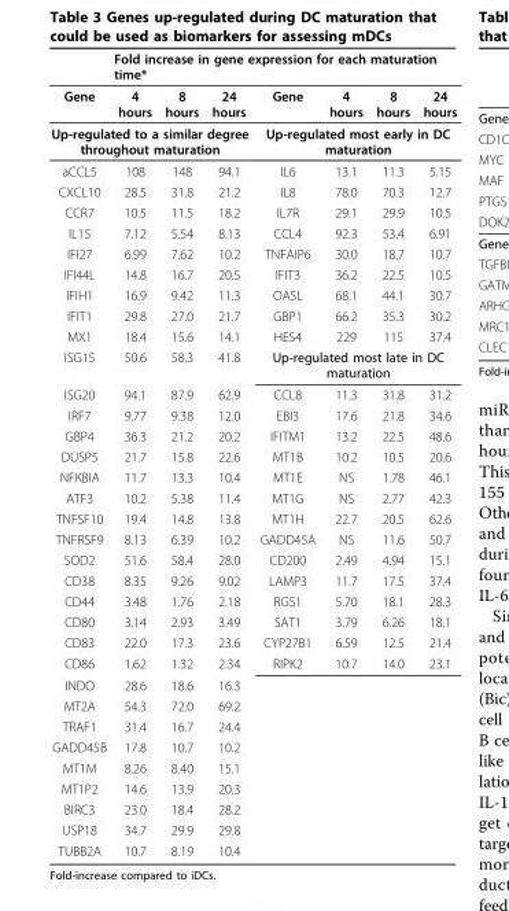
<table><thead><tr><td rowspan="2">Gene</td><td colspan="7">Fold increase in gene expression for each maturation time*</td></tr><tr><td>4 hours</td><td>8 hours</td><td>24 hours</td><td>Gene</td><td>4 hours</td><td>8 hours</td><td>24 hours</td></tr></thead><tbody><tr><td colspan="4">Up-regulated to a similar degree throughout maturation</td><td colspan="4">Up-regulated most early in DC maturation</td></tr><tr><td>aCCL5</td><td>108</td><td>148</td><td>94.1</td><td>IL6</td><td>13.1</td><td>11.3</td><td>5.15</td></tr><tr><td>CXCL10</td><td>28.5</td><td>31.8</td><td>21.2</td><td>IL8</td><td>78.0</td><td>70.3</td><td>12.7</td></tr><tr><td>CCR7</td><td>10.5</td><td>11.5</td><td>18.2</td><td>IL7R</td><td>29.1</td><td>29.9</td><td>10.5</td></tr><tr><td>IL15</td><td>7.12</td><td>5.54</td><td>8.13</td><td>CCL4</td><td>92.3</td><td>53.4</td><td>6.91</td></tr><tr><td>IFI27</td><td>6.99</td><td>7.62</td><td>10.2</td><td>TNFAIP6</td><td>30.0</td><td>18.7</td><td>10.7</td></tr><tr><td>IFI44L</td><td>14.8</td><td>16.7</td><td>20.5</td><td>IFIT3</td><td>36.2</td><td>22.5</td><td>10.5</td></tr><tr><td>IFIH1</td><td>16.9</td><td>9.42</td><td>11.3</td><td>OASL</td><td>68.1</td><td>44.1</td><td>30.7</td></tr><tr><td>IFIT1</td><td>29.8</td><td>27.0</td><td>21.7</td><td>GBP1</td><td>66.2</td><td>35.3</td><td>30.2</td></tr><tr><td>MX1</td><td>18.4</td><td>15.6</td><td>14.1</td><td>HES4</td><td>229</td><td>115</td><td>37.4</td></tr><tr><td>ISG15</td><td>50.6</td><td>58.3</td><td>41.8</td><td colspan="4">Up-regulated most late in DC maturation</td></tr><tr><td>ISG20</td><td>94.1</td><td>87.9</td><td>62.9</td><td>CCL8</td><td>11.3</td><td>31.8</td><td>31.2</td></tr><tr><td>IRF7</td><td>9.77</td><td>9.38</td><td>12.0</td><td>EBI3</td><td>17.6</td><td>21.8</td><td>34.6</td></tr><tr><td>GBP4</td><td>36.3</td><td>21.2</td><td>20.2</td><td>IFITM1</td><td>13.2</td><td>22.5</td><td>48.6</td></tr><tr><td>DUSP5</td><td>21.7</td><td>15.8</td><td>22.6</td><td>MT1B</td><td>10.2</td><td>10.5</td><td>20.6</td></tr><tr><td>NFKBIA</td><td>11.7</td><td>13.3</td><td>10.4</td><td>MT1E</td><td>NS</td><td>1.78</td><td>46.1</td></tr><tr><td>ATF3</td><td>10.2</td><td>5.38</td><td>11.4</td><td>MT1G</td><td>NS</td><td>2.77</td><td>42.3</td></tr><tr><td>TNFSF10</td><td>19.4</td><td>14.8</td><td>13.8</td><td>MT1H</td><td>22.7</td><td>20.5</td><td>62.6</td></tr><tr><td>TNFRSF9</td><td>8.13</td><td>6.39</td><td>10.2</td><td>GADD45A</td><td>NS</td><td>11.6</td><td>50.7</td></tr><tr><td>SOD2</td><td>51.6</td><td>58.4</td><td>28.0</td><td>CD200</td><td>2.49</td><td>4.94</td><td>15.1</td></tr><tr><td>CD38</td><td>8.35</td><td>9.26</td><td>9.02</td><td>LAMP3</td><td>11.7</td><td>17.5</td><td>37.4</td></tr><tr><td>CD44</td><td>3.48</td><td>1.76</td><td>2.18</td><td>RGS1</td><td>5.70</td><td>18.1</td><td>28.3</td></tr><tr><td>CD80</td><td>3.14</td><td>2.93</td><td>3.49</td><td>SAT1</td><td>3.79</td><td>6.26</td><td>18.1</td></tr><tr><td>CD83</td><td>22.0</td><td>17.3</td><td>23.6</td><td>CYP27B1</td><td>6.59</td><td>12.5</td><td>21.4</td></tr><tr><td>CD86</td><td>1.62</td><td>1.32</td><td>2.34</td><td>RIPK2</td><td>10.7</td><td>14.0</td><td>23.1</td></tr><tr><td>INDO</td><td>28.6</td><td>18.6</td><td>16.3</td><td></td><td></td><td></td><td></td></tr><tr><td>MT2A</td><td>54.3</td><td>72.0</td><td>69.2</td><td></td><td></td><td></td><td></td></tr><tr><td>TRAF1</td><td>31.4</td><td>16.7</td><td>24.4</td><td></td><td></td><td></td><td></td></tr><tr><td>GADD45B</td><td>17.8</td><td>10.7</td><td>10.2</td><td></td><td></td><td></td><td></td></tr><tr><td>MT1M</td><td>8.26</td><td>8.40</td><td>15.1</td><td></td><td></td><td></td><td></td></tr><tr><td>MT1P2</td><td>14.6</td><td>13.9</td><td>20.3</td><td></td><td></td><td></td><td></td></tr><tr><td>BIRC3</td><td>23.0</td><td>18.4</td><td>28.2</td><td></td><td></td><td></td><td></td></tr><tr><td>USP18</td><td>34.7</td><td>29.9</td><td>29.8</td><td></td><td></td><td></td><td></td></tr><tr><td>TUBB2A</td><td>10.7</td><td>8.19</td><td>10.4</td><td></td><td></td><td></td><td></td></tr></tbody></table>